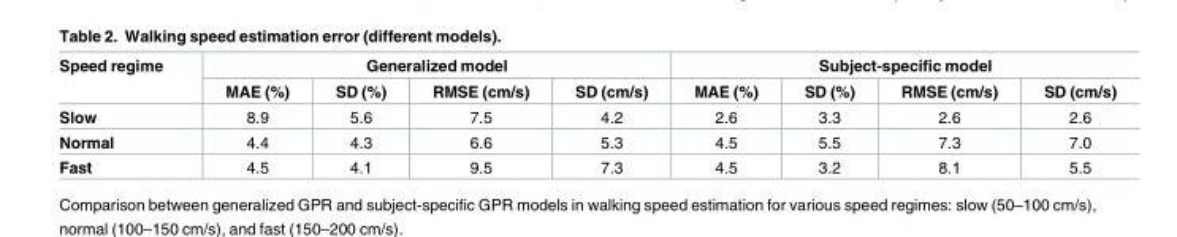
<table><thead><tr><td rowspan="2">Speed regime</td><td colspan="4">Generalized model</td><td colspan="4">Subject-specific model</td></tr><tr><td>MAE (%)</td><td>SD (%)</td><td>RMSE (cm/s)</td><td>SD (cm/s)</td><td>MAE (%)</td><td>SD (%)</td><td>RMSE (cm/s)</td><td>SD (cm/s)</td></tr></thead><tbody><tr><td>Slow</td><td>8.9</td><td>5.6</td><td>7.5</td><td>4.2</td><td>2.6</td><td>3.3</td><td>2.6</td><td>2.6</td></tr><tr><td>Normal</td><td>4.4</td><td>4.3</td><td>6.6</td><td>5.3</td><td>4.5</td><td>5.5</td><td>7.3</td><td>7.0</td></tr><tr><td>Fast</td><td>4.5</td><td>4.1</td><td>9.5</td><td>7.3</td><td>4.5</td><td>3.2</td><td>8.1</td><td>5.5</td></tr></tbody></table>